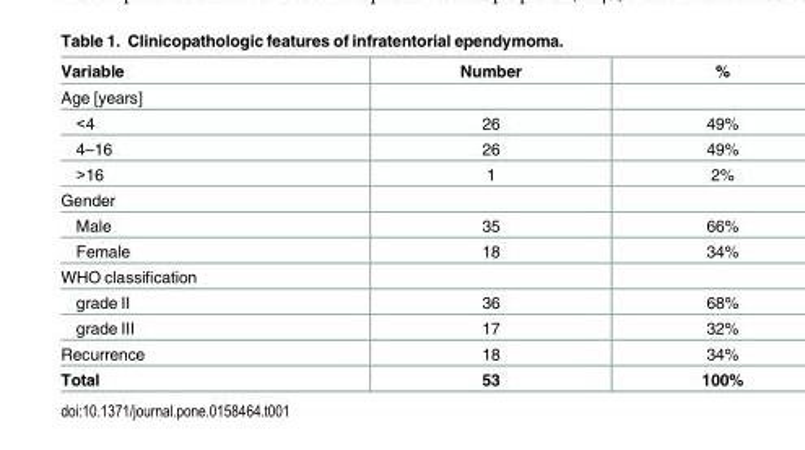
<table><thead><tr><td>Variable</td><td>Number</td><td>%</td></tr></thead><tbody><tr><td colspan="3">Age [years]</td></tr><tr><td>&lt;4</td><td>26</td><td>49%</td></tr><tr><td>4–16</td><td>26</td><td>49%</td></tr><tr><td>&gt;16</td><td>1</td><td>2%</td></tr><tr><td colspan="3">Gender</td></tr><tr><td>Male</td><td>35</td><td>66%</td></tr><tr><td>Female</td><td>18</td><td>34%</td></tr><tr><td colspan="3">WHO classification</td></tr><tr><td>grade II</td><td>36</td><td>68%</td></tr><tr><td>grade III</td><td>17</td><td>32%</td></tr><tr><td>Recurrence</td><td>18</td><td>34%</td></tr><tr><td>Total</td><td>53</td><td>100%</td></tr></tbody></table>